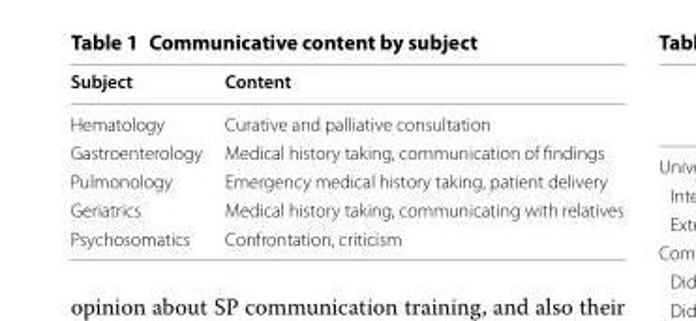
<table><thead><tr><td>Subject</td><td>Content</td></tr></thead><tbody><tr><td>Hematology</td><td>Curative and palliative consultation</td></tr><tr><td>Gastroenterology</td><td>Medical history taking, communication of findings</td></tr><tr><td>Pulmonology</td><td>Emergency medical history taking, patient delivery</td></tr><tr><td>Geriatrics</td><td>Medical history taking, communicating with relatives</td></tr><tr><td>Psychosomatics</td><td>Confrontation, criticism</td></tr></tbody></table>